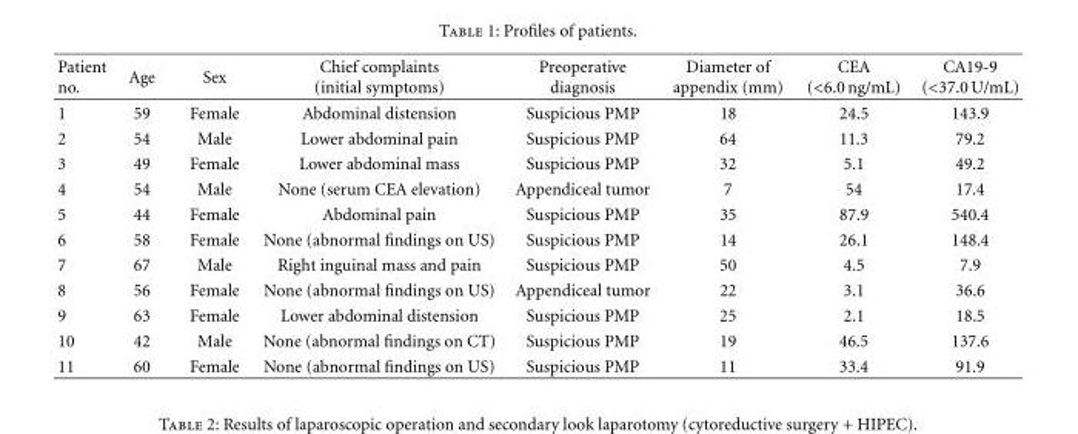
<table><thead><tr><td>Patient no.</td><td>Age</td><td>Sex</td><td>Chief complaints (initial symptoms)</td><td>Preoperative diagnosis</td><td>Diameter of appendix (mm)</td><td>CEA (&lt;6.0 ng/mL)</td><td>CA19-9 (&lt;37.0 U/mL)</td></tr></thead><tbody><tr><td>1</td><td>59</td><td>Female</td><td>Abdominal distension</td><td>Suspicious PMP</td><td>18</td><td>24.5</td><td>143.9</td></tr><tr><td>2</td><td>54</td><td>Male</td><td>Lower abdominal pain</td><td>Suspicious PMP</td><td>64</td><td>11.3</td><td>79.2</td></tr><tr><td>3</td><td>49</td><td>Female</td><td>Lower abdominal mass</td><td>Suspicious PMP</td><td>32</td><td>5.1</td><td>49.2</td></tr><tr><td>4</td><td>54</td><td>Male</td><td>None (serum CEA elevation)</td><td>Appendiceal tumor</td><td>7</td><td>54</td><td>17.4</td></tr><tr><td>5</td><td>44</td><td>Female</td><td>Abdominal pain</td><td>Suspicious PMP</td><td>35</td><td>87.9</td><td>540.4</td></tr><tr><td>6</td><td>58</td><td>Female</td><td>None (abnormal findings on US)</td><td>Suspicious PMP</td><td>14</td><td>26.1</td><td>148.4</td></tr><tr><td>7</td><td>67</td><td>Male</td><td>Right inguinal mass and pain</td><td>Suspicious PMP</td><td>50</td><td>4.5</td><td>7.9</td></tr><tr><td>8</td><td>56</td><td>Female</td><td>None (abnormal findings on US)</td><td>Appendiceal tumor</td><td>22</td><td>3.1</td><td>36.6</td></tr><tr><td>9</td><td>63</td><td>Female</td><td>Lower abdominal distension</td><td>Suspicious PMP</td><td>25</td><td>2.1</td><td>18.5</td></tr><tr><td>10</td><td>42</td><td>Male</td><td>None (abnormal findings on CT)</td><td>Suspicious PMP</td><td>19</td><td>46.5</td><td>137.6</td></tr><tr><td>11</td><td>60</td><td>Female</td><td>None (abnormal findings on US)</td><td>Suspicious PMP</td><td>11</td><td>33.4</td><td>91.9</td></tr></tbody></table>